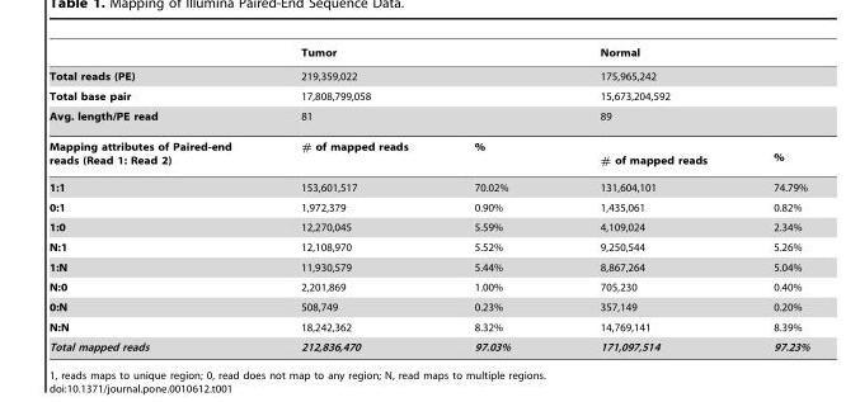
<table><thead><tr><td></td><td colspan="2">Tumor</td><td colspan="2">Normal</td></tr></thead><tbody><tr><td>Total reads (PE)</td><td colspan="2">219,359,022</td><td colspan="2">175,965,242</td></tr><tr><td>Total base pair</td><td colspan="2">17,808,799,058</td><td colspan="2">15,673,204,592</td></tr><tr><td>Avg. length/PE read</td><td colspan="2">81</td><td colspan="2">89</td></tr><tr><td>Mapping attributes of Paired-end reads (Read 1: Read 2)</td><td># of mapped reads</td><td>%</td><td># of mapped reads</td><td>%</td></tr><tr><td>1:1</td><td>153,601,517</td><td>70.02%</td><td>131,604,101</td><td>74.79%</td></tr><tr><td>0:1</td><td>1,972,379</td><td>0.90%</td><td>1,435,061</td><td>0.82%</td></tr><tr><td>1:0</td><td>12,270,045</td><td>5.59%</td><td>4,109,024</td><td>2.34%</td></tr><tr><td>N:1</td><td>12,108,970</td><td>5.52%</td><td>9,250,544</td><td>5.26%</td></tr><tr><td>1:N</td><td>11,930,579</td><td>5.44%</td><td>8,867,264</td><td>5.04%</td></tr><tr><td>N:0</td><td>2,201,869</td><td>1.00%</td><td>705,230</td><td>0.40%</td></tr><tr><td>0:N</td><td>508,749</td><td>0.23%</td><td>357,149</td><td>0.20%</td></tr><tr><td>N:N</td><td>18,242,362</td><td>8.32%</td><td>14,769,141</td><td>8.39%</td></tr><tr><td>Total mapped reads</td><td>212,836,470</td><td>97.03%</td><td>171,097,514</td><td>97.23%</td></tr></tbody></table>